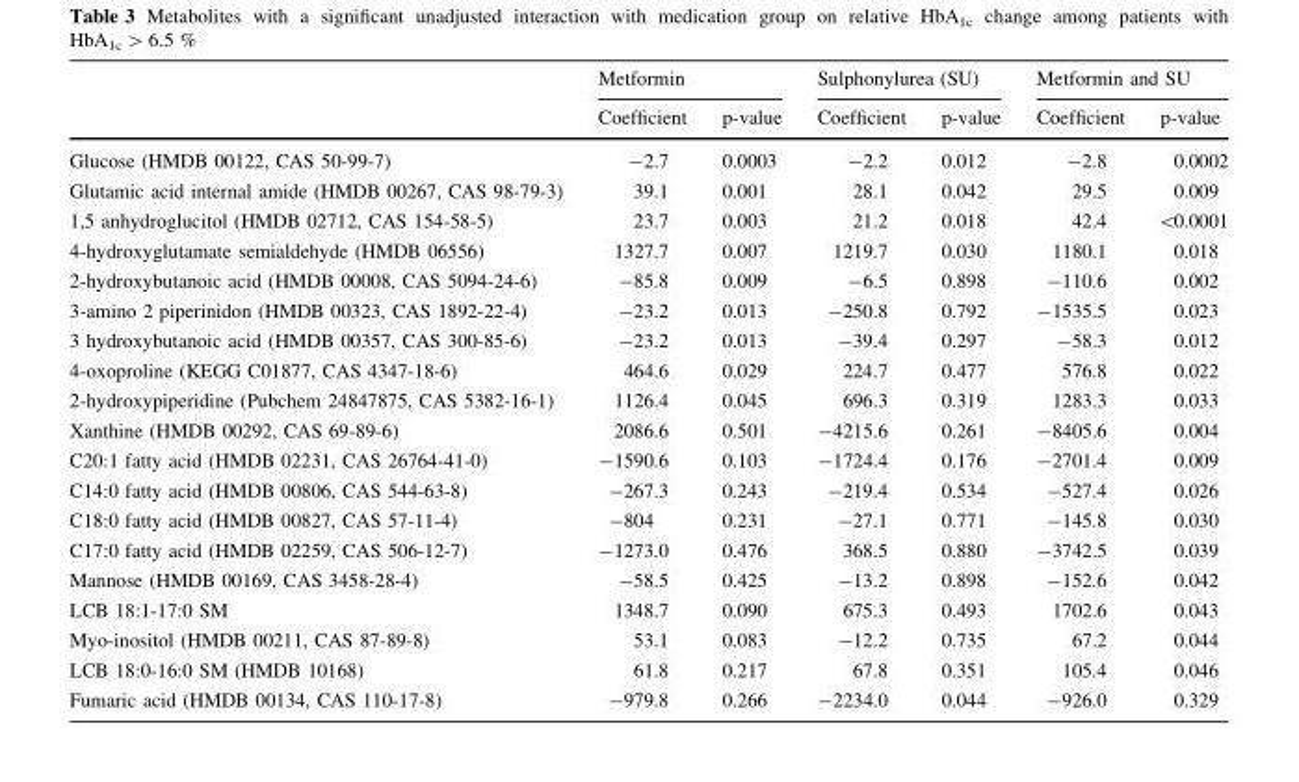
<table><thead><tr><td rowspan="2"></td><td colspan="2">Metformin</td><td colspan="2">Sulphonylurea (SU)</td><td colspan="2">Metformin and SU</td></tr><tr><td>Coefficient</td><td>p-value</td><td>Coefficient</td><td>p-value</td><td>Coefficient</td><td>p-value</td></tr></thead><tbody><tr><td>Glucose (HMDB 00122, CAS 50-99-7)</td><td>-2.7</td><td>0.0003</td><td>-2.2</td><td>0.012</td><td>-2.8</td><td>0.0002</td></tr><tr><td>Glutamic acid internal amide (HMDB 00267, CAS 98-79-3)</td><td>39.1</td><td>0.001</td><td>28.1</td><td>0.042</td><td>29.5</td><td>0.009</td></tr><tr><td>1,5 anhydroglucitol (HMDB 02712, CAS 154-58-5)</td><td>23.7</td><td>0.003</td><td>21.2</td><td>0.018</td><td>42.4</td><td>&lt;0.0001</td></tr><tr><td>4-hydroxyglutamate semialdehyde (HMDB 06556)</td><td>1327.7</td><td>0.007</td><td>1219.7</td><td>0.030</td><td>1180.1</td><td>0.018</td></tr><tr><td>2-hydroxybutanoic acid (HMDB 00008, CAS 5094-24-6)</td><td>-85.8</td><td>0.009</td><td>-6.5</td><td>0.898</td><td>-110.6</td><td>0.002</td></tr><tr><td>3-amino 2 piperinidon (HMDB 00323, CAS 1892-22-4)</td><td>-23.2</td><td>0.013</td><td>-250.8</td><td>0.792</td><td>-1535.5</td><td>0.023</td></tr><tr><td>3 hydroxybutanoic acid (HMDB 00357, CAS 300-85-6)</td><td>-23.2</td><td>0.013</td><td>-39.4</td><td>0.297</td><td>-58.3</td><td>0.012</td></tr><tr><td>4-oxoproline (KEGG C01877, CAS 4347-18-6)</td><td>464.6</td><td>0.029</td><td>224.7</td><td>0.477</td><td>576.8</td><td>0.022</td></tr><tr><td>2-hydroxypiperidine (Pubchem 24847875, CAS 5382-16-1)</td><td>1126.4</td><td>0.045</td><td>696.3</td><td>0.319</td><td>1283.3</td><td>0.033</td></tr><tr><td>Xanthine (HMDB 00292, CAS 69-89-6)</td><td>2086.6</td><td>0.501</td><td>-4215.6</td><td>0.261</td><td>-8405.6</td><td>0.004</td></tr><tr><td>C20:1 fatty acid (HMDB 02231, CAS 26764-41-0)</td><td>-1590.6</td><td>0.103</td><td>-1724.4</td><td>0.176</td><td>-2701.4</td><td>0.009</td></tr><tr><td>C14:0 fatty acid (HMDB 00806, CAS 544-63-8)</td><td>-267.3</td><td>0.243</td><td>-219.4</td><td>0.534</td><td>-527.4</td><td>0.026</td></tr><tr><td>C18:0 fatty acid (HMDB 00827, CAS 57-11-4)</td><td>-804</td><td>0.231</td><td>-27.1</td><td>0.771</td><td>-145.8</td><td>0.030</td></tr><tr><td>C17:0 fatty acid (HMDB 02259, CAS 506-12-7)</td><td>-1273.0</td><td>0.476</td><td>368.5</td><td>0.880</td><td>-3742.5</td><td>0.039</td></tr><tr><td>Mannose (HMDB 00169, CAS 3458-28-4)</td><td>-58.5</td><td>0.425</td><td>-13.2</td><td>0.898</td><td>-152.6</td><td>0.042</td></tr><tr><td>LCB 18:1-17:0 SM</td><td>1348.7</td><td>0.090</td><td>675.3</td><td>0.493</td><td>1702.6</td><td>0.043</td></tr><tr><td>Myo-inositol (HMDB 00211, CAS 87-89-8)</td><td>53.1</td><td>0.083</td><td>-12.2</td><td>0.735</td><td>67.2</td><td>0.044</td></tr><tr><td>LCB 18:0-16:0 SM (HMDB 10168)</td><td>61.8</td><td>0.217</td><td>67.8</td><td>0.351</td><td>105.4</td><td>0.046</td></tr><tr><td>Fumaric acid (HMDB 00134, CAS 110-17-8)</td><td>-979.8</td><td>0.266</td><td>-2234.0</td><td>0.044</td><td>-926.0</td><td>0.329</td></tr></tbody></table>